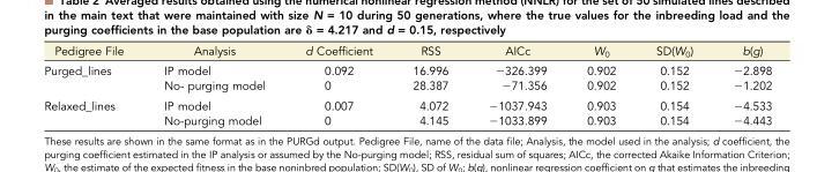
<table><thead><tr><td>Pedigree File</td><td>Analysis</td><td>d Coefficient</td><td>RSS</td><td>AICc</td><td>W<sub>0</sub></td><td>SD(W<sub>0</sub>)</td><td>b(g)</td></tr></thead><tbody><tr><td rowspan="2">Purged_lines</td><td>IP model</td><td>0.092</td><td>16.996</td><td>−326.399</td><td>0.902</td><td>0.152</td><td>−2.898</td></tr><tr><td>No- purging model</td><td>0</td><td>28.387</td><td>−71.356</td><td>0.902</td><td>0.152</td><td>−1.202</td></tr><tr><td rowspan="2">Relaxed_lines</td><td>IP model</td><td>0.007</td><td>4.072</td><td>−1037.943</td><td>0.903</td><td>0.154</td><td>−4.533</td></tr><tr><td>No-purging model</td><td>0</td><td>4.145</td><td>−1033.899</td><td>0.903</td><td>0.154</td><td>−4.443</td></tr></tbody></table>